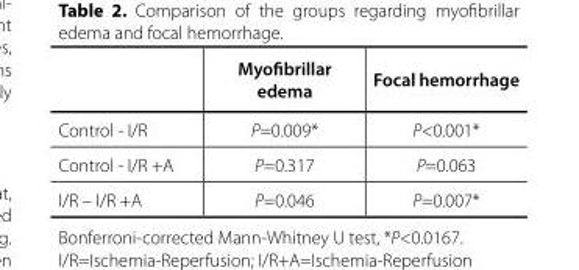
<table><thead><tr><td></td><td>Myofibrillar edema</td><td>Focal hemorrhage</td></tr></thead><tbody><tr><td>Control - I/R</td><td>P=0.009*</td><td>P&lt;0.001*</td></tr><tr><td>Control - I/R +A</td><td>P=0.317</td><td>P=0.063</td></tr><tr><td>I/R – I/R +A</td><td>P=0.046</td><td>P=0.007*</td></tr></tbody></table>